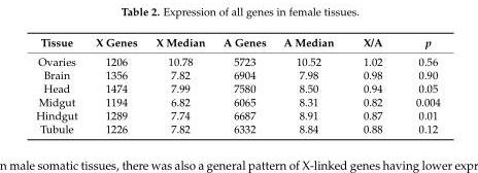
<table><thead><tr><td>Tissue</td><td>X Genes</td><td>X Median</td><td>A Genes</td><td>A Median</td><td>X/A</td><td>p</td></tr></thead><tbody><tr><td>Ovaries</td><td>1206</td><td>10.78</td><td>5723</td><td>10.52</td><td>1.02</td><td>0.56</td></tr><tr><td>Brain</td><td>1356</td><td>7.82</td><td>6904</td><td>7.98</td><td>0.98</td><td>0.90</td></tr><tr><td>Head</td><td>1474</td><td>7.99</td><td>7580</td><td>8.50</td><td>0.94</td><td>0.05</td></tr><tr><td>Midgut</td><td>1194</td><td>6.82</td><td>6065</td><td>8.31</td><td>0.82</td><td>0.004</td></tr><tr><td>Hindgut</td><td>1289</td><td>7.74</td><td>6687</td><td>8.91</td><td>0.87</td><td>0.01</td></tr><tr><td>Tubule</td><td>1226</td><td>7.82</td><td>6332</td><td>8.84</td><td>0.88</td><td>0.12</td></tr></tbody></table>